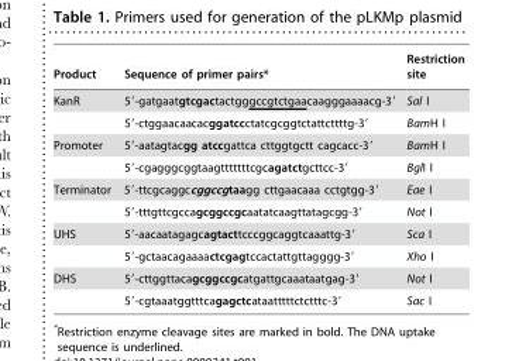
<table><thead><tr><td>Product</td><td>Sequence of primer pairs*</td><td>Restriction site</td></tr></thead><tbody><tr><td rowspan="2">KanR</td><td>5′-gatgaatgtcgactactgggccgtctgaacaagggaaaacg-3′</td><td>Sal I</td></tr><tr><td>5′-ctggaacaacacggatccctatcgcggtctattcttttg-3′</td><td>BamH I</td></tr><tr><td rowspan="2">Promoter</td><td>5′-aatagtacgg atccgattca cttggtgctt cagcacc-3′</td><td>BamH I</td></tr><tr><td>5′-cgagggcggtaagtttttttcgcagatctgcttcc-3′</td><td>BglI I</td></tr><tr><td rowspan="2">Terminator</td><td>5′-ttcgcaggccggccgtaagg cttgaacaaa cctgtgg-3′</td><td>Eae I</td></tr><tr><td>5′-tttgttcgccagcggccgcaatatcaagttatagcgg-3′</td><td>Not I</td></tr><tr><td rowspan="2">UHS</td><td>5′-aacaatagagcagtacttcccggcaggtcaaattg-3′</td><td>Sca I</td></tr><tr><td>5′-gctaacagaaaactcgagtccactattgttagggg-3′</td><td>Xho I</td></tr><tr><td rowspan="2">DHS</td><td>5′-cttggttacagcggccgcatgattgcaaataatgag-3′</td><td>Not I</td></tr><tr><td>5′-cgtaaatggtttcagagctcataatttttctctttc-3′</td><td>Sac I</td></tr></tbody></table>